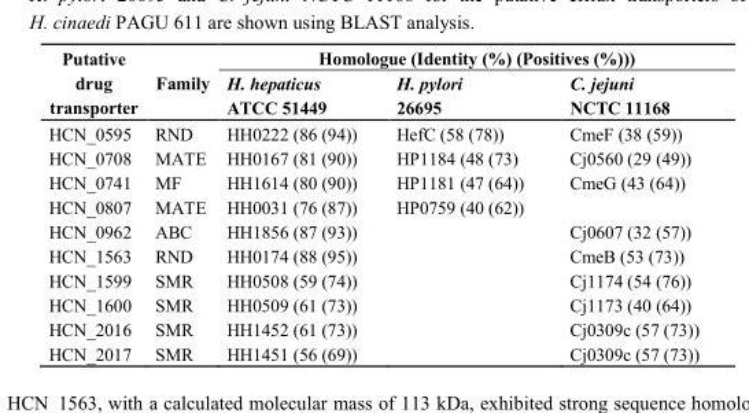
<table><thead><tr><td rowspan="3">Putative drug transporter</td><td rowspan="3">Family</td><td colspan="3">Homologue (Identity (%) (Positives (%)))</td></tr><tr><td rowspan="2">H. hepaticus ATCC 51449</td><td rowspan="2">H. pylori 26695</td><td rowspan="2">C. jejuni NCTC 11168</td></tr><tr></tr></thead><tbody><tr><td>HCN_0595</td><td>RND</td><td>HH0222 (86 (94))</td><td>HefC (58 (78))</td><td>CmeF (38 (59))</td></tr><tr><td>HCN_0708</td><td>MATE</td><td>HH0167 (81 (90))</td><td>HP1184 (48 (73)</td><td>Cj0560 (29 (49))</td></tr><tr><td>HCN_0741</td><td>MF</td><td>HH1614 (80 (90))</td><td>HP1181 (47 (64))</td><td>CmeG (43 (64))</td></tr><tr><td>HCN_0807</td><td>MATE</td><td>HH0031 (76 (87))</td><td>HP0759 (40 (62))</td><td></td></tr><tr><td>HCN_0962</td><td>ABC</td><td>HH1856 (87 (93))</td><td></td><td>Cj0607 (32 (57))</td></tr><tr><td>HCN_1563</td><td>RND</td><td>HH0174 (88 (95))</td><td></td><td>CmeB (53 (73))</td></tr><tr><td>HCN_1599</td><td>SMR</td><td>HH0508 (59 (74))</td><td></td><td>Cj1174 (54 (76))</td></tr><tr><td>HCN_1600</td><td>SMR</td><td>HH0509 (61 (73))</td><td></td><td>Cj1173 (40 (64))</td></tr><tr><td>HCN_2016</td><td>SMR</td><td>HH1452 (61 (73))</td><td></td><td>Cj0309c (57 (73))</td></tr><tr><td>HCN_2017</td><td>SMR</td><td>HH1451 (56 (69))</td><td></td><td>Cj0309c (57 (73))</td></tr></tbody></table>